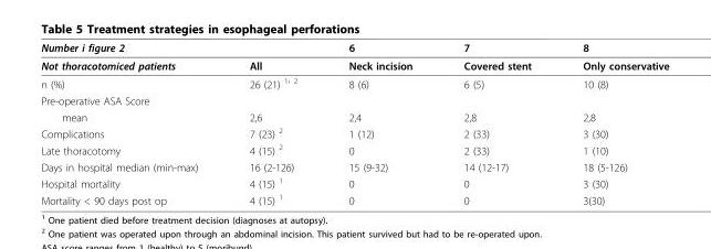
<table><thead><tr><td>Number i figure 2</td><td></td><td>6</td><td>7</td><td>8</td></tr></thead><tbody><tr><td>Not thoracotomiced patients</td><td>All</td><td>Neck incision</td><td>Covered stent</td><td>Only conservative</td></tr><tr><td>n (%)</td><td>26 (21) <sup>1</sup>’ <sup>2</sup></td><td>8 (6)</td><td>6 (5)</td><td>10 (8)</td></tr><tr><td colspan="5">Pre-operative ASA Score</td></tr><tr><td>mean</td><td>2,6</td><td>2,4</td><td>2,8</td><td>2,8</td></tr><tr><td>Complications</td><td>7 (23) <sup>2</sup></td><td>1 (12)</td><td>2 (33)</td><td>3 (30)</td></tr><tr><td>Late thoracotomy</td><td>4 (15) <sup>2</sup></td><td>0</td><td>2 (33)</td><td>1 (10)</td></tr><tr><td>Days in hospital median (min-max)</td><td>16 (2-126)</td><td>15 (9-32)</td><td>14 (12-17)</td><td>18 (5-126)</td></tr><tr><td>Hospital mortality</td><td>4 (15) <sup>1</sup></td><td>0</td><td>0</td><td>3 (30)</td></tr><tr><td>Mortality &lt; 90 days post op</td><td>4 (15) <sup>1</sup></td><td>0</td><td>0</td><td>3(30)</td></tr></tbody></table>